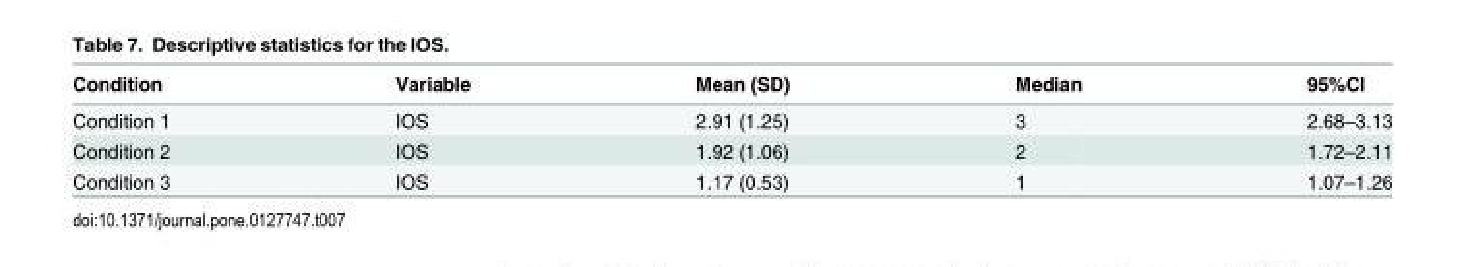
<table><thead><tr><td>Condition</td><td>Variable</td><td>Mean (SD)</td><td>Median</td><td>95%CI</td></tr></thead><tbody><tr><td>Condition 1</td><td>IOS</td><td>2.91 (1.25)</td><td>3</td><td>2.68–3.13</td></tr><tr><td>Condition 2</td><td>IOS</td><td>1.92 (1.06)</td><td>2</td><td>1.72–2.11</td></tr><tr><td>Condition 3</td><td>IOS</td><td>1.17 (0.53)</td><td>1</td><td>1.07–1.26</td></tr></tbody></table>